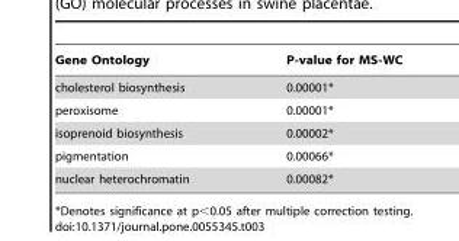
<table><thead><tr><td>Gene Ontology</td><td>P-value for MS-WC</td></tr></thead><tbody><tr><td>cholesterol biosynthesis</td><td>0.00001*</td></tr><tr><td>peroxisome</td><td>0.00001*</td></tr><tr><td>isoprenoid biosynthesis</td><td>0.00002*</td></tr><tr><td>pigmentation</td><td>0.00066*</td></tr><tr><td>nuclear heterochromatin</td><td>0.00082*</td></tr></tbody></table>